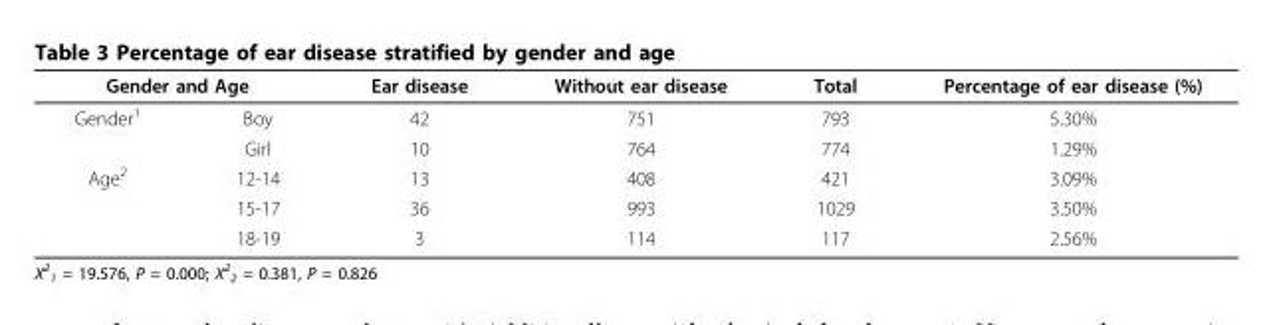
<table><thead><tr><td colspan="2">Gender and Age</td><td rowspan="2">Ear disease 42</td><td rowspan="2">Without ear disease 751</td><td rowspan="2">Total 793</td><td rowspan="2">Percentage of ear disease (%) 5.30%</td></tr><tr><td>Gender<sup>1</sup></td><td>Boy</td></tr></thead><tbody><tr><td></td><td>Girl</td><td>10</td><td>764</td><td>774</td><td>1.29%</td></tr><tr><td rowspan="3">Age<sup>2</sup></td><td>12-14</td><td>13</td><td>408</td><td>421</td><td>3.09%</td></tr><tr><td>15-17</td><td>36</td><td>993</td><td>1029</td><td>3.50%</td></tr><tr><td>18-19</td><td>3</td><td>114</td><td>117</td><td>2.56%</td></tr></tbody></table>